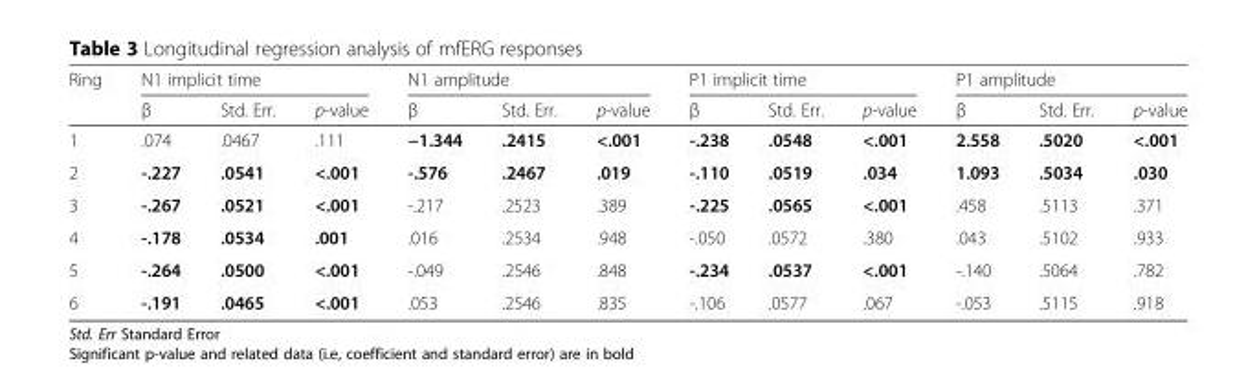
<table><thead><tr><td rowspan="2">Ring</td><td colspan="3">N1 implicit time</td><td colspan="3">N1 amplitude</td><td colspan="3">P1 implicit time</td><td colspan="3">P1 amplitude</td></tr><tr><td>β</td><td>Std. Err.</td><td>p-value</td><td>β</td><td>Std. Err.</td><td>p-value</td><td>β</td><td>Std. Err.</td><td>p-value</td><td>β</td><td>Std. Err.</td><td>p-value</td></tr></thead><tbody><tr><td>1</td><td>.074</td><td>.0467</td><td>.111</td><td>−1.344</td><td>.2415</td><td>&lt;.001</td><td>-.238</td><td>.0548</td><td>&lt;.001</td><td>2.558</td><td>.5020</td><td>&lt;.001</td></tr><tr><td>2</td><td>-.227</td><td>.0541</td><td>&lt;.001</td><td>-.576</td><td>.2467</td><td>.019</td><td>-.110</td><td>.0519</td><td>.034</td><td>1.093</td><td>.5034</td><td>.030</td></tr><tr><td>3</td><td>-.267</td><td>.0521</td><td>&lt;.001</td><td>-.217</td><td>.2523</td><td>.389</td><td>-.225</td><td>.0565</td><td>&lt;.001</td><td>.458</td><td>.5113</td><td>.371</td></tr><tr><td>4</td><td>-.178</td><td>.0534</td><td>.001</td><td>.016</td><td>.2534</td><td>.948</td><td>-.050</td><td>.0572</td><td>.380</td><td>.043</td><td>.5102</td><td>.933</td></tr><tr><td>5</td><td>-.264</td><td>.0500</td><td>&lt;.001</td><td>-.049</td><td>.2546</td><td>.848</td><td>-.234</td><td>.0537</td><td>&lt;.001</td><td>-.140</td><td>.5064</td><td>.782</td></tr><tr><td>6</td><td>-.191</td><td>.0465</td><td>&lt;.001</td><td>.053</td><td>.2546</td><td>.835</td><td>-.106</td><td>.0577</td><td>.067</td><td>-.053</td><td>.5115</td><td>.918</td></tr></tbody></table>